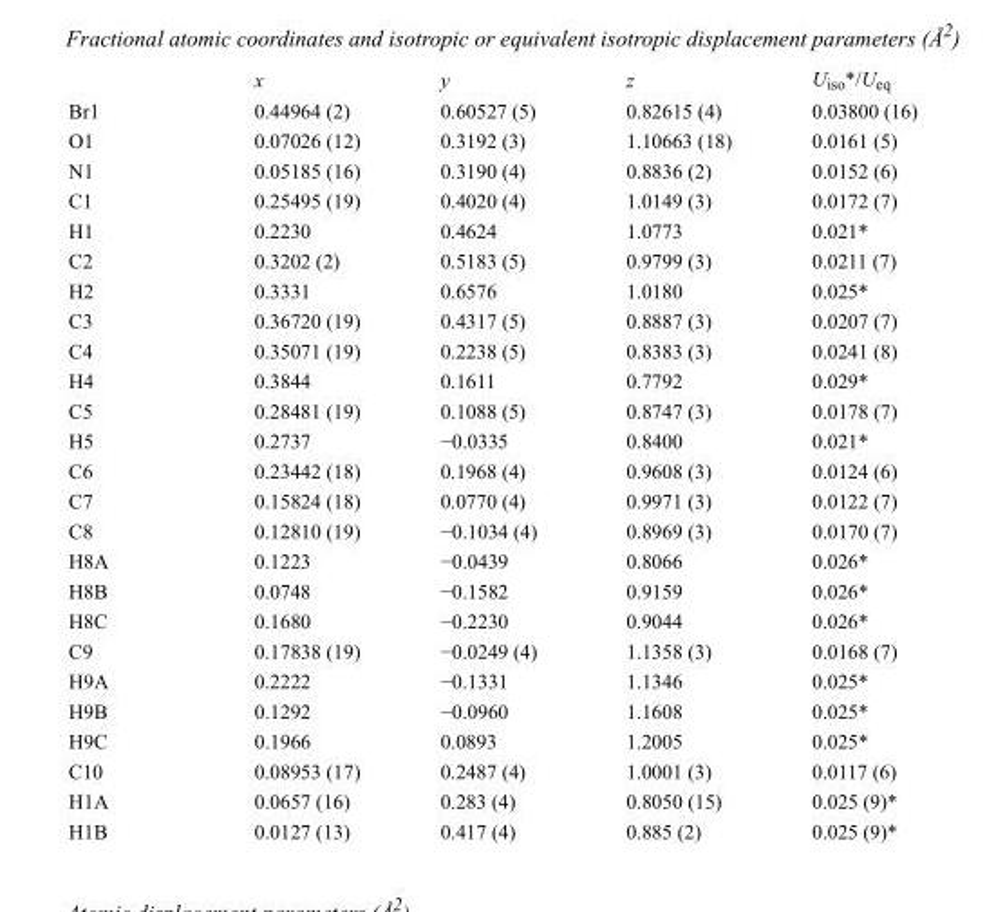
<table><thead><tr><td></td><td>x</td><td>y</td><td>z</td><td>U<sub>iso</sub>*/U<sub>eq</sub></td></tr></thead><tbody><tr><td>Br1</td><td>0.44964 (2)</td><td>0.60527 (5)</td><td>0.82615 (4)</td><td>0.03800 (16)</td></tr><tr><td>O1</td><td>0.07026 (12)</td><td>0.3192 (3)</td><td>1.10663 (18)</td><td>0.0161 (5)</td></tr><tr><td>N1</td><td>0.05185 (16)</td><td>0.3190 (4)</td><td>0.8836 (2)</td><td>0.0152 (6)</td></tr><tr><td>C1</td><td>0.25495 (19)</td><td>0.4020 (4)</td><td>1.0149 (3)</td><td>0.0172 (7)</td></tr><tr><td>H1</td><td>0.2230</td><td>0.4624</td><td>1.0773</td><td>0.021*</td></tr><tr><td>C2</td><td>0.3202 (2)</td><td>0.5183 (5)</td><td>0.9799 (3)</td><td>0.0211 (7)</td></tr><tr><td>H2</td><td>0.3331</td><td>0.6576</td><td>1.0180</td><td>0.025*</td></tr><tr><td>C3</td><td>0.36720 (19)</td><td>0.4317 (5)</td><td>0.8887 (3)</td><td>0.0207 (7)</td></tr><tr><td>C4</td><td>0.35071 (19)</td><td>0.2238 (5)</td><td>0.8383 (3)</td><td>0.0241 (8)</td></tr><tr><td>H4</td><td>0.3844</td><td>0.1611</td><td>0.7792</td><td>0.029*</td></tr><tr><td>C5</td><td>0.28481 (19)</td><td>0.1088 (5)</td><td>0.8747 (3)</td><td>0.0178 (7)</td></tr><tr><td>H5</td><td>0.2737</td><td>−0.0335</td><td>0.8400</td><td>0.021*</td></tr><tr><td>C6</td><td>0.23442 (18)</td><td>0.1968 (4)</td><td>0.9608 (3)</td><td>0.0124 (6)</td></tr><tr><td>C7</td><td>0.15824 (18)</td><td>0.0770 (4)</td><td>0.9971 (3)</td><td>0.0122 (7)</td></tr><tr><td>C8</td><td>0.12810 (19)</td><td>−0.1034 (4)</td><td>0.8969 (3)</td><td>0.0170 (7)</td></tr><tr><td>H8A</td><td>0.1223</td><td>−0.0439</td><td>0.8066</td><td>0.026*</td></tr><tr><td>H8B</td><td>0.0748</td><td>−0.1582</td><td>0.9159</td><td>0.026*</td></tr><tr><td>H8C</td><td>0.1680</td><td>−0.2230</td><td>0.9044</td><td>0.026*</td></tr><tr><td>C9</td><td>0.17838 (19)</td><td>−0.0249 (4)</td><td>1.1358 (3)</td><td>0.0168 (7)</td></tr><tr><td>H9A</td><td>0.2222</td><td>−0.1331</td><td>1.1346</td><td>0.025*</td></tr><tr><td>H9B</td><td>0.1292</td><td>−0.0960</td><td>1.1608</td><td>0.025*</td></tr><tr><td>H9C</td><td>0.1966</td><td>0.0893</td><td>1.2005</td><td>0.025*</td></tr><tr><td>C10</td><td>0.08953 (17)</td><td>0.2487 (4)</td><td>1.0001 (3)</td><td>0.0117 (6)</td></tr><tr><td>H1A</td><td>0.0657 (16)</td><td>0.283 (4)</td><td>0.8050 (15)</td><td>0.025 (9)*</td></tr><tr><td>H1B</td><td>0.0127 (13)</td><td>0.417 (4)</td><td>0.885 (2)</td><td>0.025 (9)*</td></tr></tbody></table>